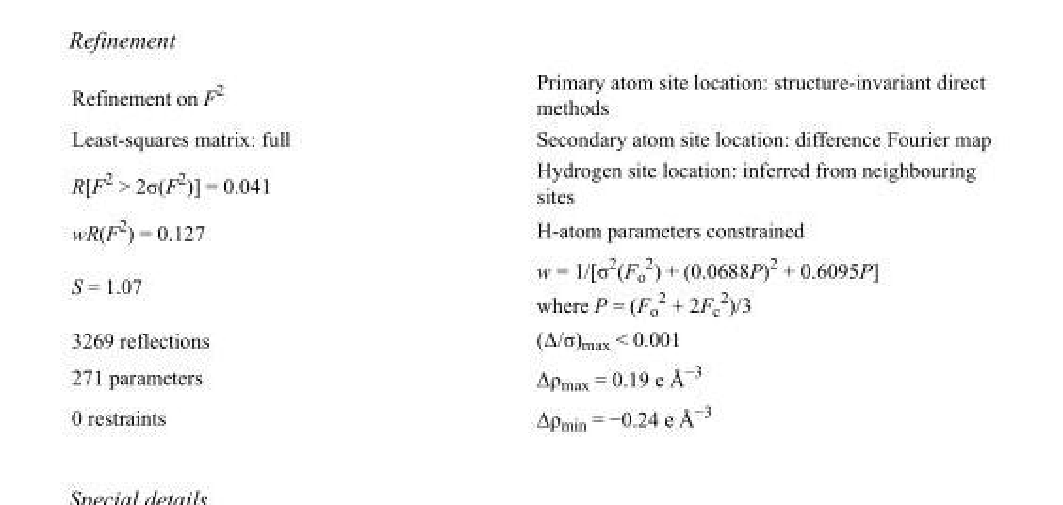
<table><tbody><tr><td>Refinement on F<sup>2</sup></td><td>Primary atom site location: structure-invariant direct methods</td></tr><tr><td>Least-squares matrix: full</td><td>Secondary atom site location: difference Fourier map</td></tr><tr><td>R[F<sup>2</sup> &gt; 2σ(F<sup>2</sup>)] = 0.041</td><td>Hydrogen site location: inferred from neighbouring sites</td></tr><tr><td>wR(F<sup>2</sup>) = 0.127</td><td>H-atom parameters constrained</td></tr><tr><td>S = 1.07</td><td>w = 1/[σ<sup>2</sup>(F<sub>o</sub> <sup>2</sup>) + (0.0688P)<sup>2</sup> + 0.6095P] where P = (F<sub>o</sub> <sup>2</sup> + 2F<sub>c</sub> <sup>2</sup>)/3</td></tr><tr><td>3269 reflections</td><td>(Δ/σ)<sub>max</sub> &lt; 0.001</td></tr><tr><td>271 parameters</td><td>Δρ<sub>max</sub> = 0.19 e Å<sup>−3</sup></td></tr><tr><td>0 restraints</td><td>Δρ<sub>min</sub> = −0.24 e Å<sup>−3</sup></td></tr></tbody></table>